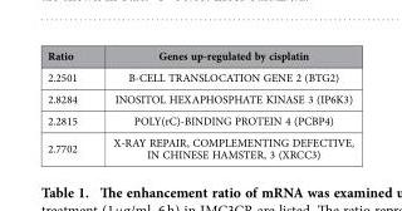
<table><thead><tr><td>Ratio</td><td>Genes up-regulated by cisplatin</td></tr></thead><tbody><tr><td>2.2501</td><td>B-CELL TRANSLOCATION GENE 2 (BTG2)</td></tr><tr><td>2.8284</td><td>INOSITOL HEXAPHOSPHATE KINASE 3 (IP6K3)</td></tr><tr><td>2.2815</td><td>POLY(rC)-BINDING PROTEIN 4 (PCBP4)</td></tr><tr><td>2.7702</td><td>X-RAY REPAIR, COMPLEMENTING DEFECTIVE, IN CHINESE HAMSTER, 3 (XRCC3)</td></tr></tbody></table>